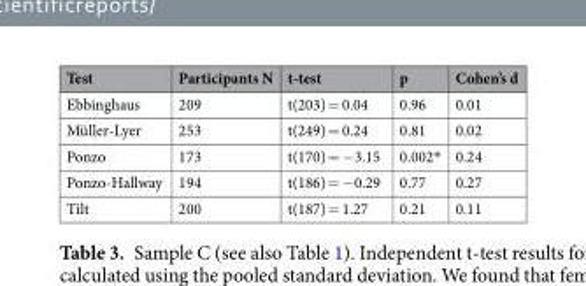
<table><thead><tr><td>Test</td><td>Participants N</td><td>t-test</td><td>p</td><td>Cohen’s d</td></tr></thead><tbody><tr><td>Ebbinghaus</td><td>209</td><td>t(203) = 0.04</td><td>0.96</td><td>0.01</td></tr><tr><td>Müller-Lyer</td><td>253</td><td>t(249) = 0.24</td><td>0.81</td><td>0.02</td></tr><tr><td>Ponzo</td><td>173</td><td>t(170) = −3.15</td><td>0.002*</td><td>0.24</td></tr><tr><td>Ponzo-Hallway</td><td>194</td><td>t(186) = −0.29</td><td>0.77</td><td>0.27</td></tr><tr><td>Tilt</td><td>200</td><td>t(187) = 1.27</td><td>0.21</td><td>0.11</td></tr></tbody></table>